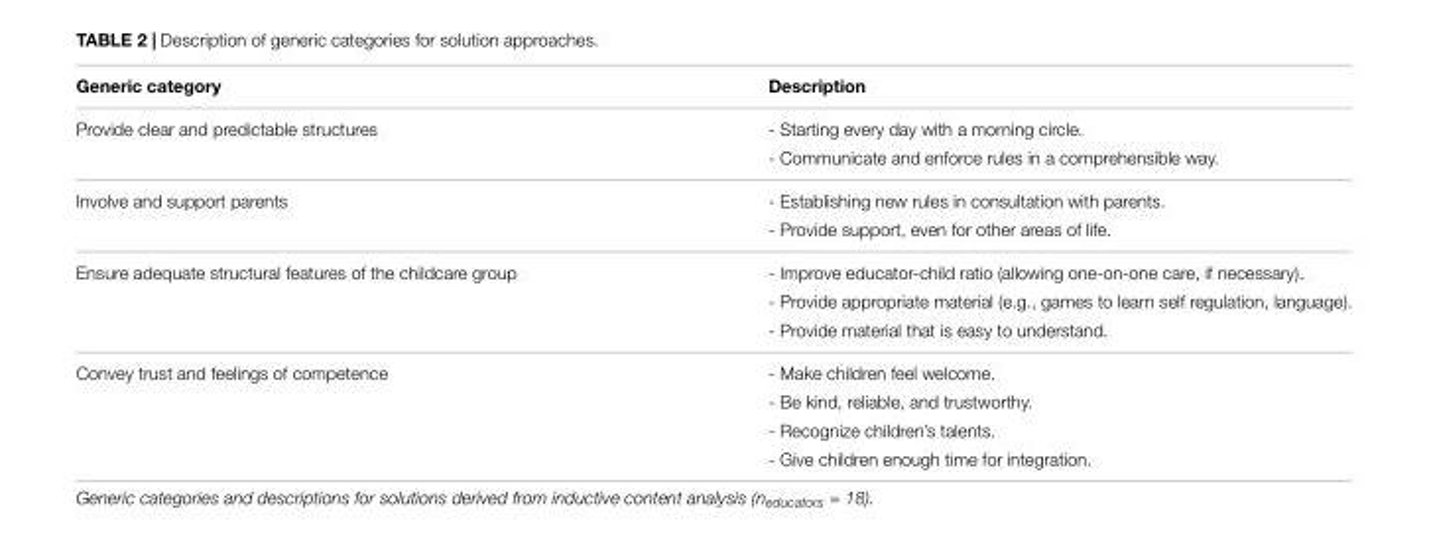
<table><thead><tr><td>Generic category</td><td>Description</td></tr></thead><tbody><tr><td rowspan="2">Provide clear and predictable structures</td><td>- Starting every day with a morning circle.</td></tr><tr><td>- Communicate and enforce rules in a comprehensible way.</td></tr><tr><td rowspan="2">Involve and support parents</td><td>- Establishing new rules in consultation with parents.</td></tr><tr><td>- Provide support, even for other areas of life.</td></tr><tr><td rowspan="3">Ensure adequate structural features of the childcare group</td><td>- Improve educator-child ratio (allowing one-on-one care, if necessary).</td></tr><tr><td>- Provide appropriate material (e.g., games to learn self regulation, language).</td></tr><tr><td>- Provide material that is easy to understand.</td></tr><tr><td rowspan="4">Convey trust and feelings of competence</td><td>- Make children feel welcome.</td></tr><tr><td>- Be kind, reliable, and trustworthy.</td></tr><tr><td>- Recognize children’s talents.</td></tr><tr><td>- Give children enough time for integration.</td></tr></tbody></table>